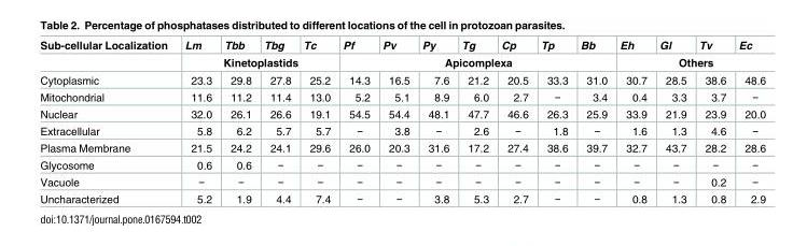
<table><thead><tr><td rowspan="2">Sub-cellular Localization</td><td>Lm</td><td>Tbb</td><td>Tbg</td><td>Tc</td><td>Pf</td><td>Pv</td><td>Py</td><td>Tg</td><td>Cp</td><td>Tp</td><td>Bb</td><td>Eh</td><td>Gl</td><td>Tv</td><td>Ec</td></tr><tr><td colspan="4">Kinetoplastids</td><td colspan="7">Apicomplexa</td><td colspan="4">Others</td></tr></thead><tbody><tr><td>Cytoplasmic</td><td>23.3</td><td>29.8</td><td>27.8</td><td>25.2</td><td>14.3</td><td>16.5</td><td>7.6</td><td>21.2</td><td>20.5</td><td>33.3</td><td>31.0</td><td>30.7</td><td>28.5</td><td>38.6</td><td>48.6</td></tr><tr><td>Mitochondrial</td><td>11.6</td><td>11.2</td><td>11.4</td><td>13.0</td><td>5.2</td><td>5.1</td><td>8.9</td><td>6.0</td><td>2.7</td><td>−</td><td>3.4</td><td>0.4</td><td>3.3</td><td>3.7</td><td>−</td></tr><tr><td>Nuclear</td><td>32.0</td><td>26.1</td><td>26.6</td><td>19.1</td><td>54.5</td><td>54.4</td><td>48.1</td><td>47.7</td><td>46.6</td><td>26.3</td><td>25.9</td><td>33.9</td><td>21.9</td><td>23.9</td><td>20.0</td></tr><tr><td>Extracellular</td><td>5.8</td><td>6.2</td><td>5.7</td><td>5.7</td><td>−</td><td>3.8</td><td>−</td><td>2.6</td><td>−</td><td>1.8</td><td>−</td><td>1.6</td><td>1.3</td><td>4.6</td><td>−</td></tr><tr><td>Plasma Membrane</td><td>21.5</td><td>24.2</td><td>24.1</td><td>29.6</td><td>26.0</td><td>20.3</td><td>31.6</td><td>17.2</td><td>27.4</td><td>38.6</td><td>39.7</td><td>32.7</td><td>43.7</td><td>28.2</td><td>28.6</td></tr><tr><td>Glycosome</td><td>0.6</td><td>0.6</td><td>−</td><td>−</td><td>−</td><td>−</td><td>−</td><td>−</td><td>−</td><td>−</td><td>−</td><td>−</td><td>−</td><td>−</td><td>−</td></tr><tr><td>Vacuole</td><td>−</td><td>−</td><td>−</td><td>−</td><td>−</td><td>−</td><td>−</td><td>−</td><td>−</td><td>−</td><td>−</td><td>−</td><td>−</td><td>0.2</td><td>−</td></tr><tr><td>Uncharacterized</td><td>5.2</td><td>1.9</td><td>4.4</td><td>7.4</td><td>−</td><td>−</td><td>3.8</td><td>5.3</td><td>2.7</td><td>−</td><td>−</td><td>0.8</td><td>1.3</td><td>0.8</td><td>2.9</td></tr></tbody></table>